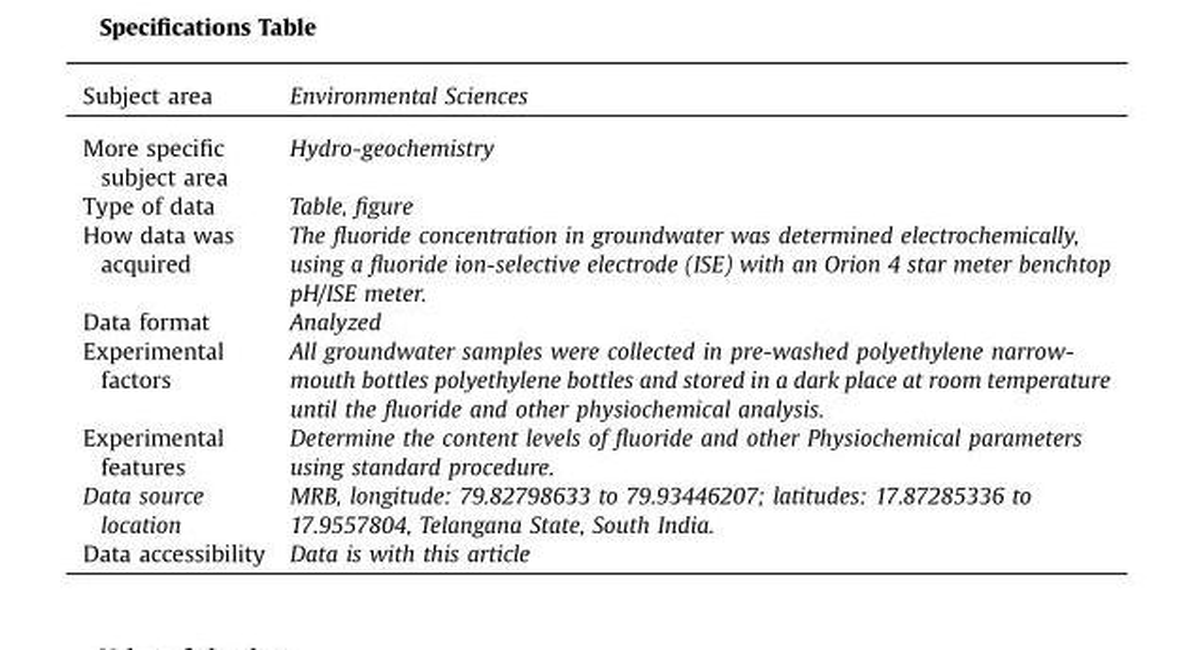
<table><thead><tr><td>Subject area</td><td>Environmental Sciences</td></tr></thead><tbody><tr><td>More specific subject area</td><td>Hydro-geochemistry</td></tr><tr><td>Type of data</td><td>Table, figure</td></tr><tr><td>How data was acquired</td><td>The fluoride concentration in groundwater was determined electrochemically, using a fluoride ion-selective electrode (ISE) with an Orion 4 star meter benchtop pH/ISE meter.</td></tr><tr><td>Data format</td><td>Analyzed</td></tr><tr><td>Experimental factors</td><td>All groundwater samples were collected in pre-washed polyethylene narrow- mouth bottles polyethylene bottles and stored in a dark place at room temperature until the fluoride and other physiochemical analysis.</td></tr><tr><td>Experimental features</td><td>Determine the content levels of fluoride and other Physiochemical parameters using standard procedure.</td></tr><tr><td>Data source location</td><td>MRB, longitude: 79.82798633 to 79.93446207; latitudes: 17.87285336 to 17.9557804, Telangana State, South India.</td></tr><tr><td>Data accessibility</td><td>Data is with this article</td></tr></tbody></table>